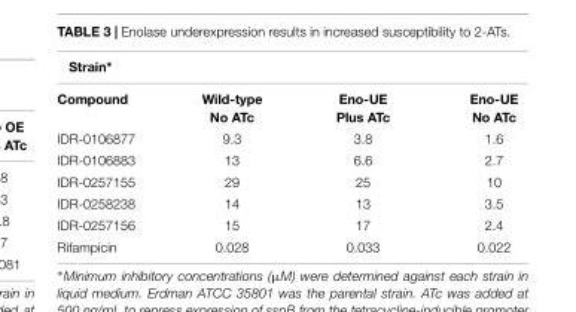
<table><thead><tr><td colspan="4">Strain∗</td></tr><tr><td>Compound</td><td>Wild-type No ATc</td><td>Eno-UE Plus ATc</td><td>Eno-UE No ATc</td></tr></thead><tbody><tr><td>IDR-0106877</td><td>9.3</td><td>3.8</td><td>1.6</td></tr><tr><td>IDR-0106883</td><td>13</td><td>6.6</td><td>2.7</td></tr><tr><td>IDR-0257155</td><td>29</td><td>25</td><td>10</td></tr><tr><td>IDR-0258238</td><td>14</td><td>13</td><td>3.5</td></tr><tr><td>IDR-0257156</td><td>15</td><td>17</td><td>2.4</td></tr><tr><td>Rifampicin</td><td>0.028</td><td>0.033</td><td>0.022</td></tr></tbody></table>